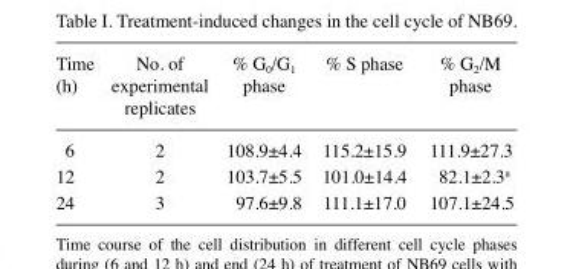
<table><thead><tr><td>Time (h)</td><td>No. of experimental replicates</td><td>% G<sub>0</sub>/G<sub>1</sub> phase</td><td>% S phase</td><td>% G<sub>2</sub>/M phase</td></tr></thead><tbody><tr><td>6</td><td>2</td><td>108.9±4.4</td><td>115.2±15.9</td><td>111.9±27.3</td></tr><tr><td>12</td><td>2</td><td>103.7±5.5</td><td>101.0±14.4</td><td>82.1±2.3<sup>a</sup></td></tr><tr><td>24</td><td>3</td><td>97.6±9.8</td><td>111.1±17.0</td><td>107.1±24.5</td></tr></tbody></table>